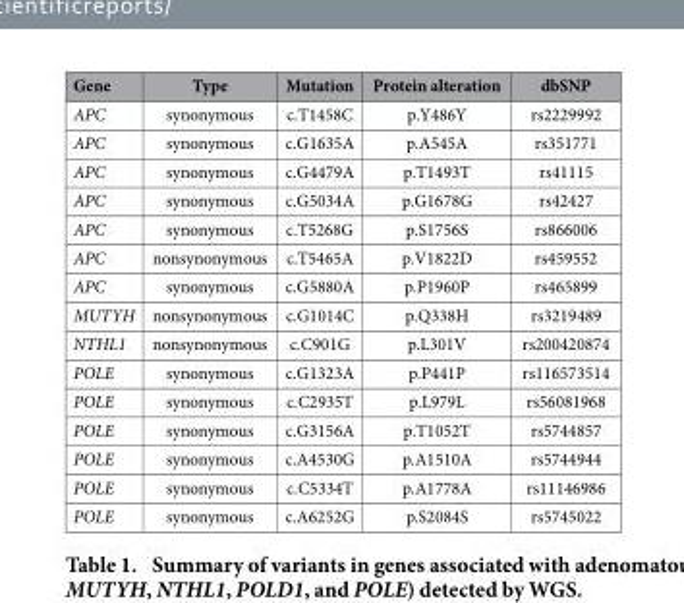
<table><thead><tr><td>Gene</td><td>Type</td><td>Mutation</td><td>Protein alteration</td><td>dbSNP</td></tr></thead><tbody><tr><td>APC</td><td>synonymous</td><td>c.T1458C</td><td>p.Y486Y</td><td>rs2229992</td></tr><tr><td>APC</td><td>synonymous</td><td>c.G1635A</td><td>p.A545A</td><td>rs351771</td></tr><tr><td>APC</td><td>synonymous</td><td>c.G4479A</td><td>p.T1493T</td><td>rs41115</td></tr><tr><td>APC</td><td>synonymous</td><td>c.G5034A</td><td>p.G1678G</td><td>rs42427</td></tr><tr><td>APC</td><td>synonymous</td><td>c.T5268G</td><td>p.S1756S</td><td>rs866006</td></tr><tr><td>APC</td><td>nonsynonymous</td><td>c.T5465A</td><td>p.V1822D</td><td>rs459552</td></tr><tr><td>APC</td><td>synonymous</td><td>c.G5880A</td><td>p.P1960P</td><td>rs465899</td></tr><tr><td>MUTYH</td><td>nonsynonymous</td><td>c.G1014C</td><td>p.Q338H</td><td>rs3219489</td></tr><tr><td>NTHL1</td><td>nonsynonymous</td><td>c.C901G</td><td>p.L301V</td><td>rs200420874</td></tr><tr><td>POLE</td><td>synonymous</td><td>c.G1323A</td><td>p.P441P</td><td>rs116573514</td></tr><tr><td>POLE</td><td>synonymous</td><td>c.C2935T</td><td>p.L979L</td><td>rs56081968</td></tr><tr><td>POLE</td><td>synonymous</td><td>c.G3156A</td><td>p.T1052T</td><td>rs5744857</td></tr><tr><td>POLE</td><td>synonymous</td><td>c.A4530G</td><td>p.A1510A</td><td>rs5744944</td></tr><tr><td>POLE</td><td>synonymous</td><td>c.C5334T</td><td>p.A1778A</td><td>rs11146986</td></tr><tr><td>POLE</td><td>synonymous</td><td>c.A6252G</td><td>p.S2084S</td><td>rs5745022</td></tr></tbody></table>